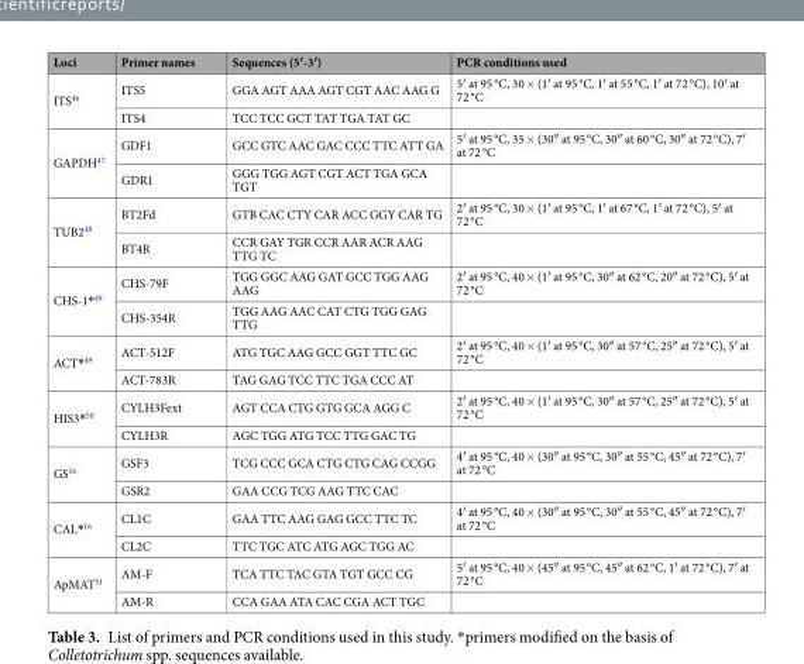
<table><thead><tr><td>Loci</td><td>Primer names</td><td>Sequences (5′-3′)</td><td>PCR conditions used</td></tr></thead><tbody><tr><td rowspan="2">ITS<sup>46</sup></td><td>ITS5</td><td>GGA AGT AAA AGT CGT AAC AAG G</td><td>5′ at 95 °C, 30 × (1′ at 95 °C, 1′ at 55 °C, 1′ at 72 °C), 10′ at 72 °C</td></tr><tr><td>ITS4</td><td>TCC TCC GCT TAT TGA TAT GC</td><td></td></tr><tr><td rowspan="2">GAPDH<sup>47</sup></td><td>GDF1</td><td>GCC GTC AAC GAC CCC TTC ATT GA</td><td>5′ at 95 °C, 35 × (30″ at 95 °C, 30″ at 60 °C, 30″ at 72 °C), 7′ at 72 °C</td></tr><tr><td>GDR1</td><td>GGG TGG AGT CGT ACT TGA GCA TGT</td><td></td></tr><tr><td rowspan="2">TUB2<sup>48</sup></td><td>BT2Fd</td><td>GTB CAC CTY CAR ACC GGY CAR TG</td><td>2′ at 95 °C, 30 × (1′ at 95 °C, 1′ at 67 °C, 1′ at 72 °C), 5′ at 72 °C</td></tr><tr><td>BT4R</td><td>CCR GAY TGR CCR AAR ACR AAG TTG TC</td><td></td></tr><tr><td rowspan="2">CHS-1*<sup>49</sup></td><td>CHS-79F</td><td>TGG GGC AAG GAT GCC TGG AAG AAG</td><td>2′ at 95 °C, 40 × (1′ at 95 °C, 30″ at 62 °C, 20″ at 72 °C), 5′ at 72 °C</td></tr><tr><td>CHS-354R</td><td>TGG AAG AAC CAT CTG TGG GAG TTG</td><td></td></tr><tr><td rowspan="2">ACT*<sup>49</sup></td><td>ACT-512F</td><td>ATG TGC AAG GCC GGT TTC GC</td><td>2′ at 95 °C, 40 × (1′ at 95 °C, 30″ at 57 °C, 25″ at 72 °C), 5′ at 72 °C</td></tr><tr><td>ACT-783R</td><td>TAG GAG TCC TTC TGA CCC AT</td><td></td></tr><tr><td rowspan="2">HIS3*<sup>50</sup></td><td>CYLH3Fext</td><td>AGT CCA CTG GTG GCA AGG C</td><td>2′ at 95 °C, 40 × (1′ at 95 °C, 30″ at 57 °C, 25″ at 72 °C), 5′ at 72 °C</td></tr><tr><td>CYLH3R</td><td>AGC TGG ATG TCC TTG GAC TG</td><td></td></tr><tr><td rowspan="2">GS<sup>16</sup></td><td>GSF3</td><td>TCG CCC GCA CTG CTG CAG CCGG</td><td>4′ at 95 °C, 40 × (30″ at 95 °C, 30″ at 55 °C, 45″ at 72 °C), 7′ at 72 °C</td></tr><tr><td>GSR2</td><td>GAA CCG TCG AAG TTC CAC</td><td></td></tr><tr><td rowspan="2">CAL*<sup>16</sup></td><td>CL1C</td><td>GAA TTC AAG GAG GCC TTC TC</td><td>4′ at 95 °C, 40 × (30″ at 95 °C, 30″ at 55 °C, 45″ at 72 °C), 7′ at 72 °C</td></tr><tr><td>CL2C</td><td>TTC TGC ATC ATG AGC TGG AC</td><td></td></tr><tr><td rowspan="2">ApMAT<sup>51</sup></td><td>AM-F</td><td>TCA TTC TAC GTA TGT GCC CG</td><td>5′ at 95 °C, 40 × (45″ at 95 °C, 45″ at 62 °C, 1′ at 72 °C), 7′ at 72 °C</td></tr><tr><td>AM-R</td><td>CCA GAA ATA CAC CGA ACT TGC</td><td></td></tr></tbody></table>